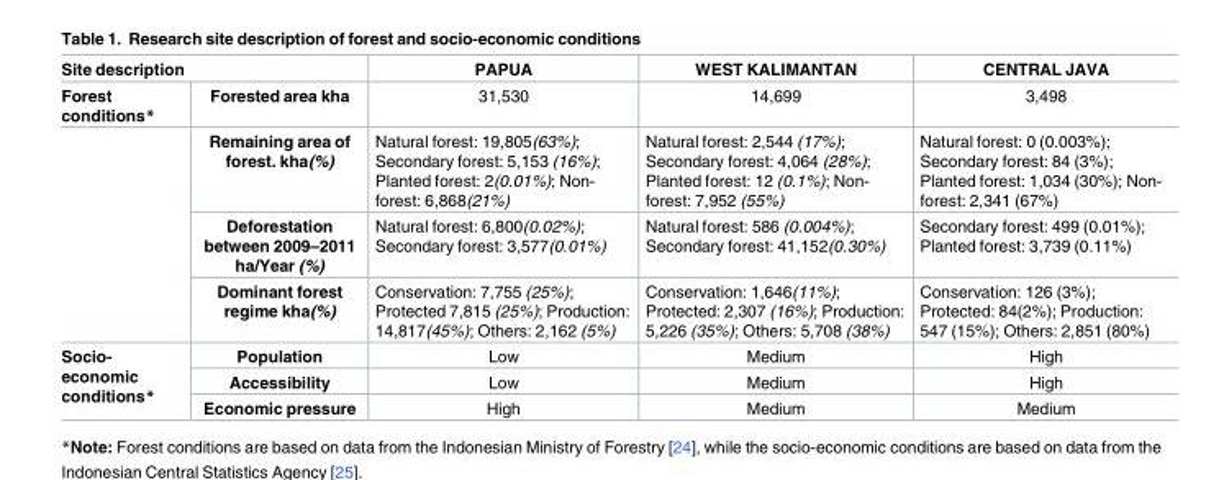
<table><thead><tr><td colspan="2">Site description</td><td rowspan="2">PAPUA 31,530</td><td rowspan="2">WEST KALIMANTAN 14,699</td><td rowspan="2">CENTRAL JAVA 3,498</td></tr><tr><td>Forest conditions*</td><td>Forested area kha</td></tr></thead><tbody><tr><td rowspan="3"></td><td>Remaining area of forest. kha(%)</td><td>Natural forest: 19,805(63%); Secondary forest: 5,153 (16%); Planted forest: 2(0.01%); Non- forest: 6,868(21%)</td><td>Natural forest: 2,544 (17%); Secondary forest: 4,064 (28%); Planted forest: 12 (0.1%); Non- forest: 7,952 (55%)</td><td>Natural forest: 0 (0.003%); Secondary forest: 84 (3%); Planted forest: 1,034 (30%); Non- forest: 2,341 (67%)</td></tr><tr><td>Deforestation between 2009–2011 ha/Year (%)</td><td>Natural forest: 6,800(0.02%); Secondary forest: 3,577(0.01%)</td><td>Natural forest: 586 (0.004%); Secondary forest: 41,152(0.30%)</td><td>Secondary forest: 499 (0.01%); Planted forest: 3,739 (0.11%)</td></tr><tr><td>Dominant forest regime kha(%)</td><td>Conservation: 7,755 (25%); Protected 7,815 (25%); Production: 14,817(45%); Others: 2,162 (5%)</td><td>Conservation: 1,646(11%); Protected: 2,307 (16%); Production: 5,226 (35%); Others: 5,708 (38%)</td><td>Conservation: 126 (3%); Protected: 84(2%); Production: 547 (15%); Others: 2,851 (80%)</td></tr><tr><td rowspan="3">Socio- economic conditions*</td><td>Population</td><td>Low</td><td>Medium</td><td>High</td></tr><tr><td>Accessibility</td><td>Low</td><td>Medium</td><td>High</td></tr><tr><td>Economic pressure</td><td>High</td><td>Medium</td><td>Medium</td></tr></tbody></table>